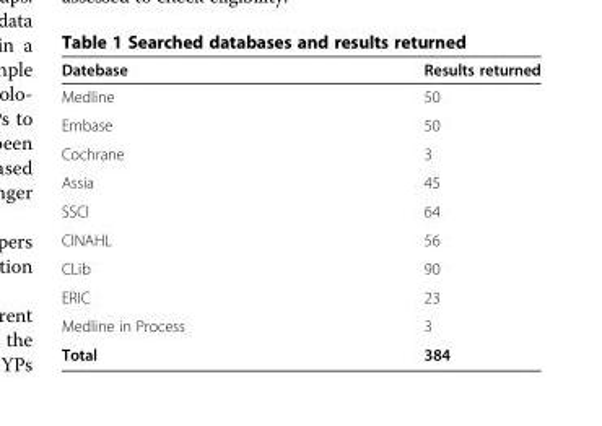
<table><thead><tr><td>Datebase</td><td>Results returned</td></tr></thead><tbody><tr><td>Medline</td><td>50</td></tr><tr><td>Embase</td><td>50</td></tr><tr><td>Cochrane</td><td>3</td></tr><tr><td>Assia</td><td>45</td></tr><tr><td>SSCI</td><td>64</td></tr><tr><td>CINAHL</td><td>56</td></tr><tr><td>CLib</td><td>90</td></tr><tr><td>ERIC</td><td>23</td></tr><tr><td>Medline in Process</td><td>3</td></tr><tr><td>Total</td><td>384</td></tr></tbody></table>